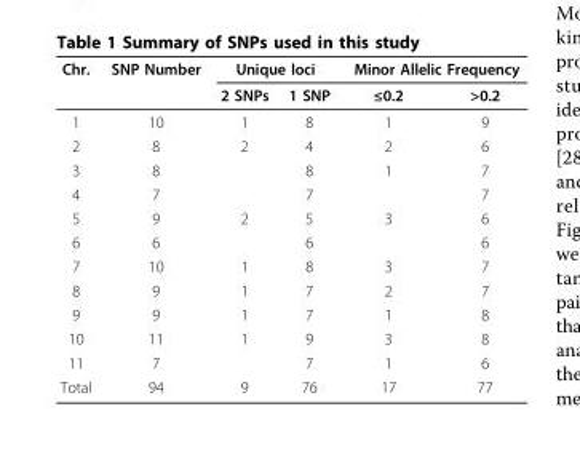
<table><thead><tr><td rowspan="2">Chr.</td><td rowspan="2">SNP Number</td><td colspan="2">Unique loci</td><td colspan="2">Minor Allelic Frequency</td></tr><tr><td>2 SNPs</td><td>1 SNP</td><td>≤0.2</td><td>&gt;0.2</td></tr></thead><tbody><tr><td>1</td><td>10</td><td>1</td><td>8</td><td>1</td><td>9</td></tr><tr><td>2</td><td>8</td><td>2</td><td>4</td><td>2</td><td>6</td></tr><tr><td>3</td><td>8</td><td></td><td>8</td><td>1</td><td>7</td></tr><tr><td>4</td><td>7</td><td></td><td>7</td><td></td><td>7</td></tr><tr><td>5</td><td>9</td><td>2</td><td>5</td><td>3</td><td>6</td></tr><tr><td>6</td><td>6</td><td></td><td>6</td><td></td><td>6</td></tr><tr><td>7</td><td>10</td><td>1</td><td>8</td><td>3</td><td>7</td></tr><tr><td>8</td><td>9</td><td>1</td><td>7</td><td>2</td><td>7</td></tr><tr><td>9</td><td>9</td><td>1</td><td>7</td><td>1</td><td>8</td></tr><tr><td>10</td><td>11</td><td>1</td><td>9</td><td>3</td><td>8</td></tr><tr><td>11</td><td>7</td><td></td><td>7</td><td>1</td><td>6</td></tr><tr><td>Total</td><td>94</td><td>9</td><td>76</td><td>17</td><td>77</td></tr></tbody></table>